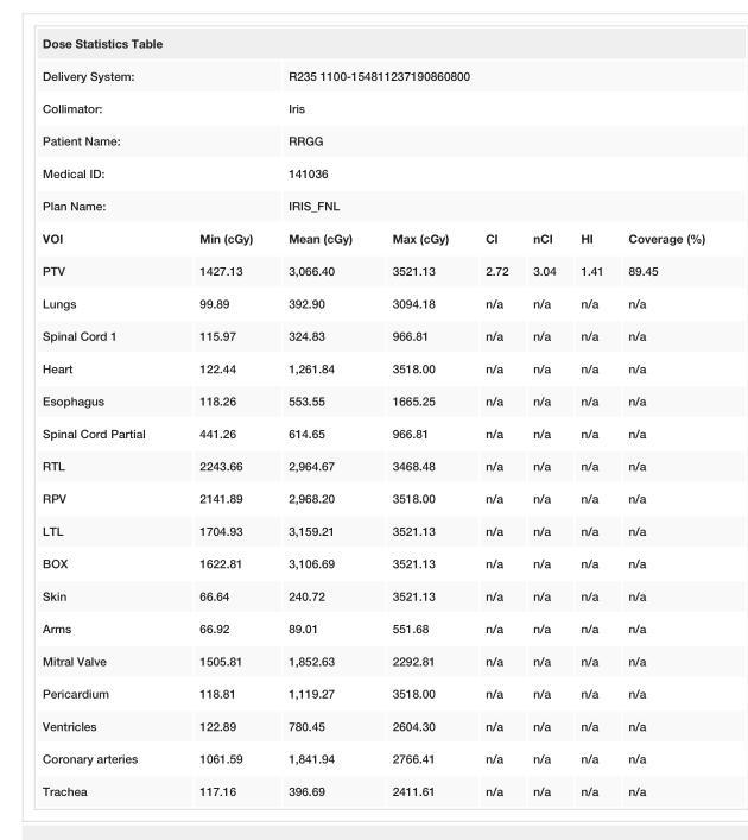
<table><tbody><tr><td colspan="8">Dose Statistics Table</td></tr><tr><td colspan="2">Delivery System:</td><td colspan="6">R235 1100-154811237190860800</td></tr><tr><td colspan="2">Collimator:</td><td colspan="6">Iris</td></tr><tr><td colspan="2">Patient Name:</td><td colspan="6">RRGG</td></tr><tr><td colspan="2">Medical ID:</td><td colspan="6">141036</td></tr><tr><td colspan="2">Plan Name:</td><td colspan="6">IRIS_FNL</td></tr><tr><td>VOI</td><td>Min (cGy)</td><td>Mean (cGy)</td><td>Max (cGy)</td><td>CI</td><td>nCI</td><td>HI</td><td>Coverage (%)</td></tr><tr><td>PTV</td><td>1427.13</td><td>3,066.40</td><td>3521.13</td><td>2.72</td><td>3.04</td><td>1.41</td><td>89.45</td></tr><tr><td>Lungs</td><td>99.89</td><td>392.90</td><td>3094.18</td><td>n/a</td><td>n/a</td><td>n/a</td><td>n/a</td></tr><tr><td>Spinal Cord 1</td><td>115.97</td><td>324.83</td><td>966.81</td><td>n/a</td><td>n/a</td><td>n/a</td><td>n/a</td></tr><tr><td>Heart</td><td>122.44</td><td>1,261.84</td><td>3518.00</td><td>n/a</td><td>n/a</td><td>n/a</td><td>n/a</td></tr><tr><td>Esophagus</td><td>118.26</td><td>553.55</td><td>1665.25</td><td>n/a</td><td>n/a</td><td>n/a</td><td>n/a</td></tr><tr><td>Spinal Cord Partial</td><td>441.26</td><td>614.65</td><td>966.81</td><td>n/a</td><td>n/a</td><td>n/a</td><td>n/a</td></tr><tr><td>RTL</td><td>2243.66</td><td>2,964.67</td><td>3468.48</td><td>n/a</td><td>n/a</td><td>n/a</td><td>n/a</td></tr><tr><td>RPV</td><td>2141.89</td><td>2,968.20</td><td>3518.00</td><td>n/a</td><td>n/a</td><td>n/a</td><td>n/a</td></tr><tr><td>LTL</td><td>1704.93</td><td>3,159.21</td><td>3521.13</td><td>n/a</td><td>n/a</td><td>n/a</td><td>n/a</td></tr><tr><td>BOX</td><td>1622.81</td><td>3,106.69</td><td>3521.13</td><td>n/a</td><td>n/a</td><td>n/a</td><td>n/a</td></tr><tr><td>Skin</td><td>66.64</td><td>240.72</td><td>3521.13</td><td>n/a</td><td>n/a</td><td>n/a</td><td>n/a</td></tr><tr><td>Arms</td><td>66.92</td><td>89.01</td><td>551.68</td><td>n/a</td><td>n/a</td><td>n/a</td><td>n/a</td></tr><tr><td>Mitral Valve</td><td>1505.81</td><td>1,852.63</td><td>2292.81</td><td>n/a</td><td>n/a</td><td>n/a</td><td>n/a</td></tr><tr><td>Pericardium</td><td>118.81</td><td>1,119.27</td><td>3518.00</td><td>n/a</td><td>n/a</td><td>n/a</td><td>n/a</td></tr><tr><td>Ventricles</td><td>122.89</td><td>780.45</td><td>2604.30</td><td>n/a</td><td>n/a</td><td>n/a</td><td>n/a</td></tr><tr><td>Coronary arteries</td><td>1061.59</td><td>1,841.94</td><td>2766.41</td><td>n/a</td><td>n/a</td><td>n/a</td><td>n/a</td></tr><tr><td>Trachea</td><td>117.16</td><td>396.69</td><td>2411.61</td><td>n/a</td><td>n/a</td><td>n/a</td><td>n/a</td></tr></tbody></table>